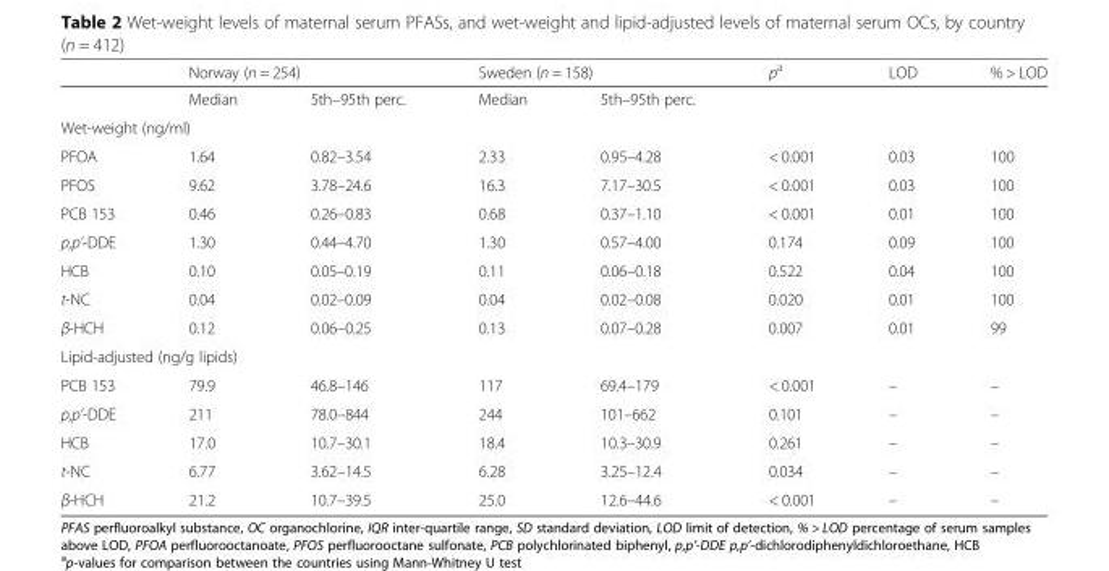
<table><thead><tr><td rowspan="2"></td><td colspan="2">Norway (n = 254)</td><td colspan="2">Sweden (n = 158)</td><td rowspan="2">p<sup>a</sup></td><td rowspan="2">LOD</td><td rowspan="2">% &gt; LOD</td></tr><tr><td>Median</td><td>5th–95th perc.</td><td>Median</td><td>5th–95th perc.</td></tr></thead><tbody><tr><td colspan="8">Wet-weight (ng/ml)</td></tr><tr><td>PFOA</td><td>1.64</td><td>0.82–3.54</td><td>2.33</td><td>0.95–4.28</td><td>&lt; 0.001</td><td>0.03</td><td>100</td></tr><tr><td>PFOS</td><td>9.62</td><td>3.78–24.6</td><td>16.3</td><td>7.17–30.5</td><td>&lt; 0.001</td><td>0.03</td><td>100</td></tr><tr><td>PCB 153</td><td>0.46</td><td>0.26–0.83</td><td>0.68</td><td>0.37–1.10</td><td>&lt; 0.001</td><td>0.01</td><td>100</td></tr><tr><td>p,p’-DDE</td><td>1.30</td><td>0.44–4.70</td><td>1.30</td><td>0.57–4.00</td><td>0.174</td><td>0.09</td><td>100</td></tr><tr><td>HCB</td><td>0.10</td><td>0.05–0.19</td><td>0.11</td><td>0.06–0.18</td><td>0.522</td><td>0.04</td><td>100</td></tr><tr><td>t-NC</td><td>0.04</td><td>0.02–0.09</td><td>0.04</td><td>0.02–0.08</td><td>0.020</td><td>0.01</td><td>100</td></tr><tr><td>β-HCH</td><td>0.12</td><td>0.06–0.25</td><td>0.13</td><td>0.07–0.28</td><td>0.007</td><td>0.01</td><td>99</td></tr><tr><td colspan="8">Lipid-adjusted (ng/g lipids)</td></tr><tr><td>PCB 153</td><td>79.9</td><td>46.8–146</td><td>117</td><td>69.4–179</td><td>&lt; 0.001</td><td>–</td><td>–</td></tr><tr><td>p,p’-DDE</td><td>211</td><td>78.0–844</td><td>244</td><td>101–662</td><td>0.101</td><td>–</td><td>–</td></tr><tr><td>HCB</td><td>17.0</td><td>10.7–30.1</td><td>18.4</td><td>10.3–30.9</td><td>0.261</td><td>–</td><td>–</td></tr><tr><td>t-NC</td><td>6.77</td><td>3.62–14.5</td><td>6.28</td><td>3.25–12.4</td><td>0.034</td><td>–</td><td>–</td></tr><tr><td>β-HCH</td><td>21.2</td><td>10.7–39.5</td><td>25.0</td><td>12.6–44.6</td><td>&lt; 0.001</td><td>–</td><td>–</td></tr></tbody></table>